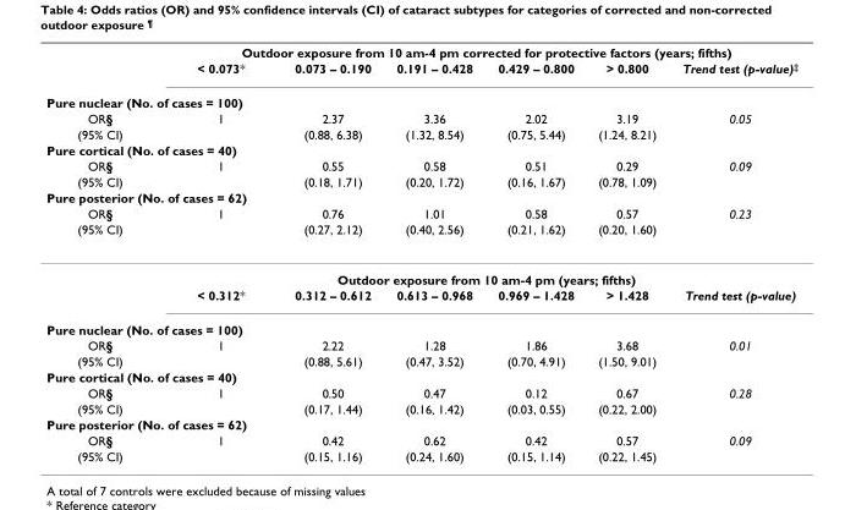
<table><thead><tr><td rowspan="2"></td><td colspan="6">Outdoor exposure from 10 am-4 pm corrected for protective factors (years; fifths)</td></tr><tr><td>&lt; 0.073*</td><td rowspan="10">0.073 – 0.190 2.37 (0.88, 6.38) 0.55 (0.18, 1.71) 0.76 (0.27, 2.12)</td><td rowspan="10">0.191 – 0.428 3.36 (1.32, 8.54) 0.58 (0.20, 1.72) 1.01 (0.40, 2.56)</td><td rowspan="10">0.429 – 0.800 2.02 (0.75, 5.44) 0.51 (0.16, 1.67) 0.58 (0.21, 1.62)</td><td rowspan="10">&gt; 0.800 3.19 (1.24, 8.21) 0.29 (0.78, 1.09) 0.57 (0.20, 1.60)</td><td rowspan="10">Trend test (p-value)‡ 0.05 0.09 0.23</td></tr><tr><td colspan="2">Pure nuclear (No. of cases = 100)</td></tr><tr><td rowspan="2">OR§ (95% CI)</td><td rowspan="2">1</td></tr><tr></tr><tr><td colspan="2">Pure cortical (No. of cases = 40)</td></tr><tr><td rowspan="2">OR§ (95% CI)</td><td rowspan="2">1</td></tr><tr></tr><tr><td colspan="2">Pure posterior (No. of cases = 62)</td></tr><tr><td rowspan="2">OR§ (95% CI)</td><td rowspan="2">1</td></tr><tr></tr></thead><tbody><tr><td></td><td colspan="6">Outdoor exposure from 10 am-4 pm (years; fifths)</td></tr><tr><td></td><td>&lt; 0.312*</td><td>0.312 – 0.612</td><td>0.613 – 0.968</td><td>0.969 – 1.428</td><td>&gt; 1.428</td><td>Trend test (p-value)</td></tr><tr><td colspan="7">Pure nuclear (No. of cases = 100)</td></tr><tr><td>OR§</td><td>1</td><td>2.22</td><td>1.28</td><td>1.86</td><td>3.68</td><td>0.01</td></tr><tr><td>(95% CI)</td><td></td><td>(0.88, 5.61)</td><td>(0.47, 3.52)</td><td>(0.70, 4.91)</td><td>(1.50, 9.01)</td><td></td></tr><tr><td colspan="7">Pure cortical (No. of cases = 40)</td></tr><tr><td>OR§</td><td>1</td><td>0.50</td><td>0.47</td><td>0.12</td><td>0.67</td><td>0.28</td></tr><tr><td>(95% CI)</td><td></td><td>(0.17, 1.44)</td><td>(0.16, 1.42)</td><td>(0.03, 0.55)</td><td>(0.22, 2.00)</td><td></td></tr><tr><td colspan="7">Pure posterior (No. of cases = 62)</td></tr><tr><td>OR§</td><td>1</td><td>0.42</td><td>0.62</td><td>0.42</td><td>0.57</td><td>0.09</td></tr><tr><td>(95% CI)</td><td></td><td>(0.15, 1.16)</td><td>(0.24, 1.60)</td><td>(0.15, 1.14)</td><td>(0.22, 1.45)</td><td></td></tr></tbody></table>